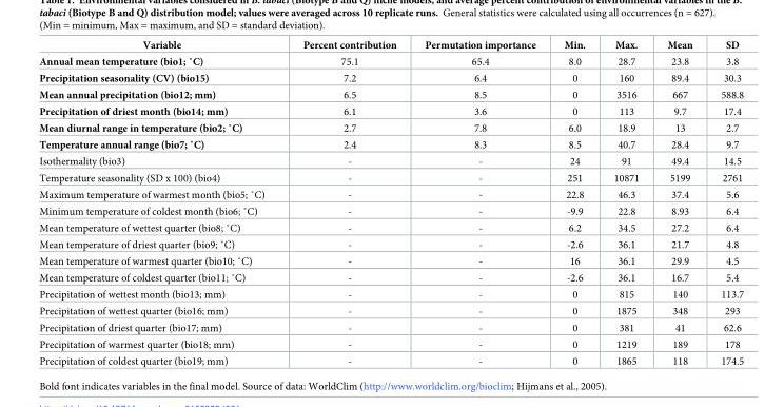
<table><thead><tr><td>Variable</td><td>Percent contribution</td><td>Permutation importance</td><td>Min.</td><td>Max.</td><td>Mean</td><td>SD</td></tr></thead><tbody><tr><td>Annual mean temperature (bio1; ˚C)</td><td>75.1</td><td>65.4</td><td>8.0</td><td>28.7</td><td>23.8</td><td>3.8</td></tr><tr><td>Precipitation seasonality (CV) (bio15)</td><td>7.2</td><td>6.4</td><td>0</td><td>160</td><td>89.4</td><td>30.3</td></tr><tr><td>Mean annual precipitation (bio12; mm)</td><td>6.5</td><td>8.5</td><td>0</td><td>3516</td><td>667</td><td>588.8</td></tr><tr><td>Precipitation of driest month (bio14; mm)</td><td>6.1</td><td>3.6</td><td>0</td><td>113</td><td>9.7</td><td>17.4</td></tr><tr><td>Mean diurnal range in temperature (bio2; ˚C)</td><td>2.7</td><td>7.8</td><td>6.0</td><td>18.9</td><td>13</td><td>2.7</td></tr><tr><td>Temperature annual range (bio7; ˚C)</td><td>2.4</td><td>8.3</td><td>8.5</td><td>40.7</td><td>28.4</td><td>9.7</td></tr><tr><td>Isothermality (bio3)</td><td>-</td><td>-</td><td>24</td><td>91</td><td>49.4</td><td>14.5</td></tr><tr><td>Temperature seasonality (SD x 100) (bio4)</td><td>-</td><td>-</td><td>251</td><td>10871</td><td>5199</td><td>2761</td></tr><tr><td>Maximum temperature of warmest month (bio5; ˚C)</td><td>-</td><td>-</td><td>22.8</td><td>46.3</td><td>37.4</td><td>5.6</td></tr><tr><td>Minimum temperature of coldest month (bio6; ˚C)</td><td>-</td><td>-</td><td>-9.9</td><td>22.8</td><td>8.93</td><td>6.4</td></tr><tr><td>Mean temperature of wettest quarter (bio8; ˚C)</td><td>-</td><td>-</td><td>6.2</td><td>34.5</td><td>27.2</td><td>6.4</td></tr><tr><td>Mean temperature of driest quarter (bio9; ˚C)</td><td>-</td><td>-</td><td>-2.6</td><td>36.1</td><td>21.7</td><td>4.8</td></tr><tr><td>Mean temperature of warmest quarter (bio10; ˚C)</td><td>-</td><td>-</td><td>16</td><td>36.1</td><td>29.9</td><td>4.5</td></tr><tr><td>Mean temperature of coldest quarter (bio11; ˚C)</td><td>-</td><td>-</td><td>-2.6</td><td>36.1</td><td>16.7</td><td>5.4</td></tr><tr><td>Precipitation of wettest month (bio13; mm)</td><td>-</td><td>-</td><td>0</td><td>815</td><td>140</td><td>113.7</td></tr><tr><td>Precipitation of wettest quarter (bio16; mm)</td><td>-</td><td>-</td><td>0</td><td>1875</td><td>348</td><td>293</td></tr><tr><td>Precipitation of driest quarter (bio17; mm)</td><td>-</td><td>-</td><td>0</td><td>381</td><td>41</td><td>62.6</td></tr><tr><td>Precipitation of warmest quarter (bio18; mm)</td><td>-</td><td>-</td><td>0</td><td>1219</td><td>189</td><td>178</td></tr><tr><td>Precipitation of coldest quarter (bio19; mm)</td><td>-</td><td>-</td><td>0</td><td>1865</td><td>118</td><td>174.5</td></tr></tbody></table>